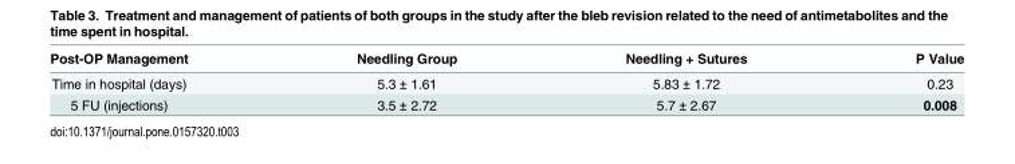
<table><thead><tr><td>Post-OP Management</td><td>Needling Group</td><td>Needling + Sutures</td><td>P Value</td></tr></thead><tbody><tr><td>Time in hospital (days)</td><td>5.3 ± 1.61</td><td>5.83 ± 1.72</td><td>0.23</td></tr><tr><td>5 FU (injections)</td><td>3.5 ± 2.72</td><td>5.7 ± 2.67</td><td>0.008</td></tr></tbody></table>